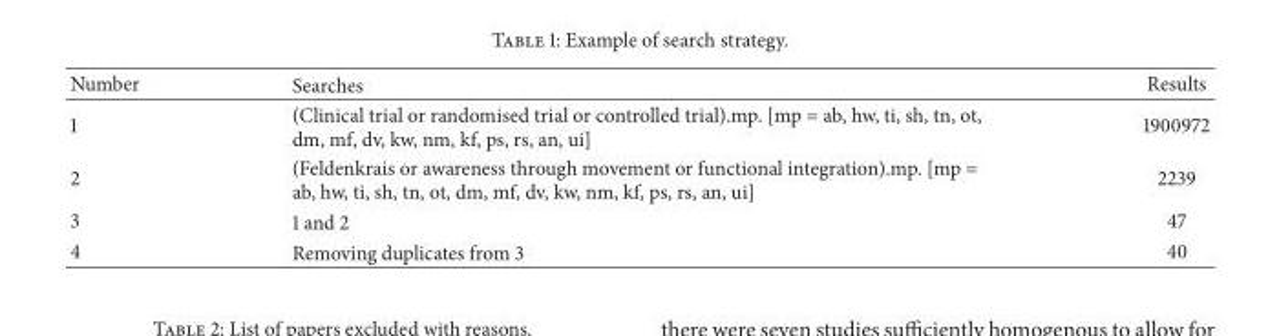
<table><thead><tr><td>Number</td><td>Searches</td><td>Results</td></tr></thead><tbody><tr><td>1</td><td>(Clinical trial or randomised trial or controlled trial).mp. [mp = ab, hw, ti, sh, tn, ot, dm, mf, dv, kw, nm, kf, ps, rs, an, ui]</td><td>1900972</td></tr><tr><td>2</td><td>(Feldenkrais or awareness through movement or functional integration).mp. [mp = ab, hw, ti, sh, tn, ot, dm, mf, dv, kw, nm, kf, ps, rs, an, ui]</td><td>2239</td></tr><tr><td>3</td><td>1 and 2</td><td>47</td></tr><tr><td>4</td><td>Removing duplicates from 3</td><td>40</td></tr></tbody></table>